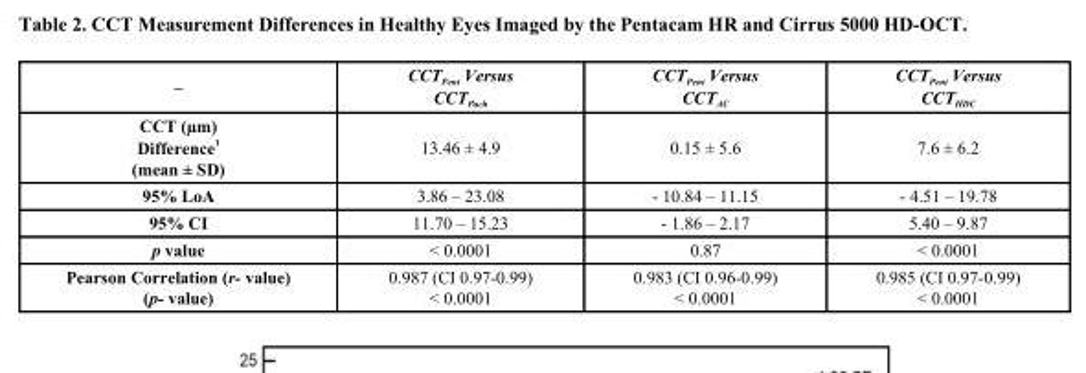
<table><thead><tr><td>–</td><td>CCT<sub>Pent</sub> Versus CCT<sub>Pach</sub></td><td>CCT<sub>Pent</sub> Versus CCT<sub>AC</sub></td><td>CCT<sub>Pent</sub> Versus CCT<sub>HDC</sub></td></tr></thead><tbody><tr><td>CCT (µm) Difference <sup>1</sup> (mean ± SD)</td><td>13.46 ± 4.9</td><td>0.15 ± 5.6</td><td>7.6 ± 6.2</td></tr><tr><td>95% LoA</td><td>3.86 – 23.08</td><td>- 10.84 – 11.15</td><td>- 4.51 – 19.78</td></tr><tr><td>95% CI</td><td>11.70 – 15.23</td><td>- 1.86 – 2.17</td><td>5.40 – 9.87</td></tr><tr><td>p value</td><td>&lt; 0.0001</td><td>0.87</td><td>&lt; 0.0001</td></tr><tr><td>Pearson Correlation (r- value) (p- value)</td><td>0.987 (CI 0.97-0.99) &lt; 0.0001</td><td>0.983 (CI 0.96-0.99) &lt; 0.0001</td><td>0.985 (CI 0.97-0.99) &lt; 0.0001</td></tr></tbody></table>